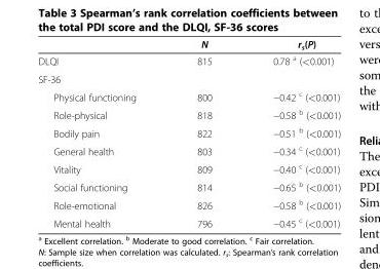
<table><thead><tr><td></td><td>N</td><td>r<sub>s</sub>(P)</td></tr></thead><tbody><tr><td>DLQI</td><td>815</td><td>0.78 <sup>a</sup> (&lt;0.001)</td></tr><tr><td colspan="3">SF-36</td></tr><tr><td>Physical functioning</td><td>800</td><td>−0.42 <sup>c</sup> (&lt;0.001)</td></tr><tr><td>Role-physical</td><td>818</td><td>−0.58 <sup>b</sup> (&lt;0.001)</td></tr><tr><td>Bodily pain</td><td>822</td><td>−0.51 <sup>b</sup> (&lt;0.001)</td></tr><tr><td>General health</td><td>803</td><td>−0.34 <sup>c</sup> (&lt;0.001)</td></tr><tr><td>Vitality</td><td>809</td><td>−0.40 <sup>c</sup> (&lt;0.001)</td></tr><tr><td>Social functioning</td><td>814</td><td>−0.65 <sup>b</sup> (&lt;0.001)</td></tr><tr><td>Role-emotional</td><td>826</td><td>−0.58 <sup>b</sup> (&lt;0.001)</td></tr><tr><td>Mental health</td><td>796</td><td>−0.45 <sup>c</sup> (&lt;0.001)</td></tr></tbody></table>